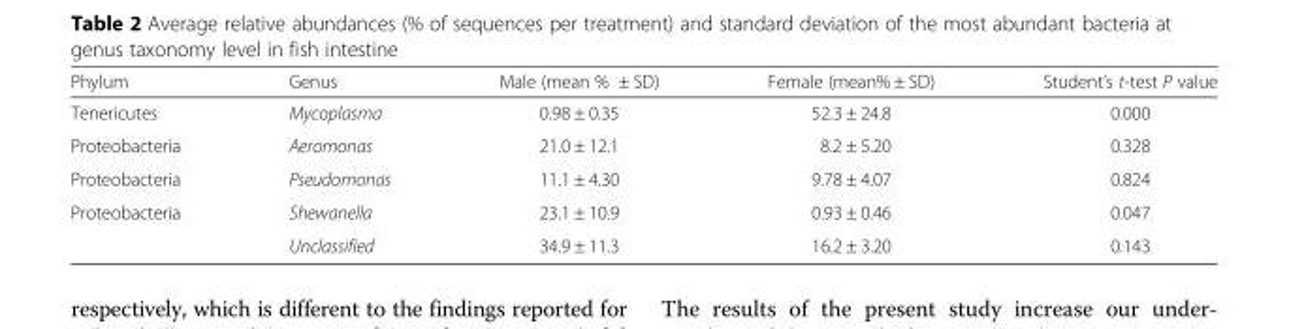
<table><thead><tr><td>Phylum</td><td>Genus</td><td>Male (mean % ± SD)</td><td>Female (mean% ± SD)</td><td>Student’s t-test P value</td></tr></thead><tbody><tr><td>Tenericutes</td><td>Mycoplasma</td><td>0.98 ± 0.35</td><td>52.3 ± 24.8</td><td>0.000</td></tr><tr><td>Proteobacteria</td><td>Aeromonas</td><td>21.0 ± 12.1</td><td>8.2 ± 5.20</td><td>0.328</td></tr><tr><td>Proteobacteria</td><td>Pseudomonas</td><td>11.1 ± 4.30</td><td>9.78 ± 4.07</td><td>0.824</td></tr><tr><td rowspan="2">Proteobacteria</td><td>Shewanella</td><td>23.1 ± 10.9</td><td>0.93 ± 0.46</td><td>0.047</td></tr><tr><td>Unclassified</td><td>34.9 ± 11.3</td><td>16.2 ± 3.20</td><td>0.143</td></tr></tbody></table>